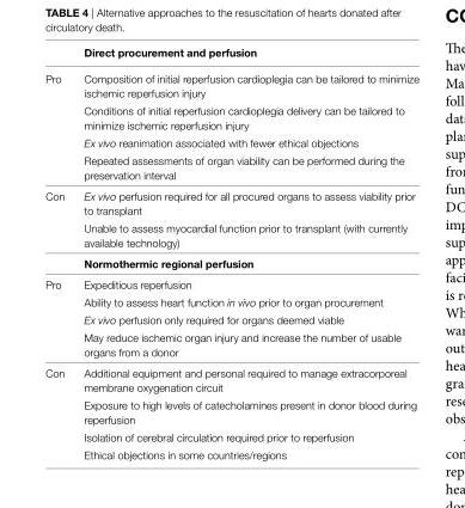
<table><thead><tr><td></td><td>Direct procurement and perfusion</td></tr></thead><tbody><tr><td rowspan="4">Pro</td><td>Composition of initial reperfusion cardioplegia can be tailored to minimize ischemic reperfusion injury</td></tr><tr><td>Conditions of initial reperfusion cardioplegia delivery can be tailored to minimize ischemic reperfusion injury</td></tr><tr><td>Ex vivo reanimation associated with fewer ethical objections</td></tr><tr><td>Repeated assessments of organ viability can be performed during the preservation interval</td></tr><tr><td rowspan="3">Con</td><td>Ex vivo perfusion required for all procured organs to assess viability prior to transplant</td></tr><tr><td>Unable to assess myocardial function prior to transplant (with currently available technology)</td></tr><tr><td>Normothermic regional perfusion</td></tr><tr><td rowspan="4">Pro</td><td>Expeditious reperfusion</td></tr><tr><td>Ability to assess heart function in vivo prior to organ procurement</td></tr><tr><td>Ex vivo perfusion only required for organs deemed viable</td></tr><tr><td>May reduce ischemic organ injury and increase the number of usable organs from a donor</td></tr><tr><td rowspan="4">Con</td><td>Additional equipment and personal required to manage extracorporeal membrane oxygenation circuit</td></tr><tr><td>Exposure to high levels of catecholamines present in donor blood during reperfusion</td></tr><tr><td>Isolation of cerebral circulation required prior to reperfusion</td></tr><tr><td>Ethical objections in some countries/regions</td></tr></tbody></table>